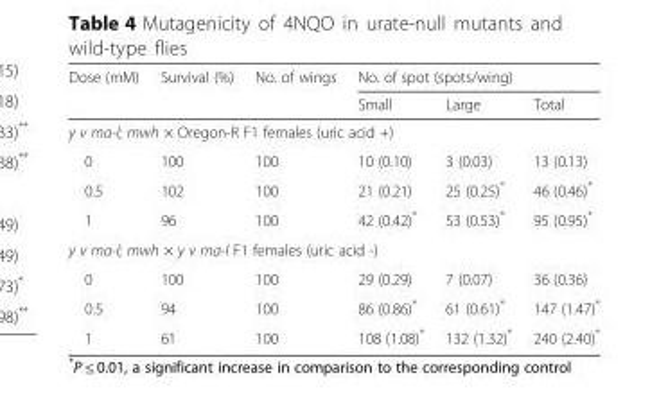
<table><thead><tr><td rowspan="2">Dose (mM)</td><td rowspan="2">Survival (%)</td><td rowspan="2">No. of wings</td><td colspan="3">No. of spot (spots/wing)</td></tr><tr><td>Small</td><td>Large</td><td>Total</td></tr></thead><tbody><tr><td colspan="6">y v ma-l; mwh × Oregon-R F1 females (uric acid +)</td></tr><tr><td>0</td><td>100</td><td>100</td><td>10 (0.10)</td><td>3 (0.03)</td><td>13 (0.13)</td></tr><tr><td>0.5</td><td>102</td><td>100</td><td>21 (0.21)</td><td>25 (0.25)*</td><td>46 (0.46)*</td></tr><tr><td>1</td><td>96</td><td>100</td><td>42 (0.42)*</td><td>53 (0.53)*</td><td>95 (0.95)*</td></tr><tr><td colspan="6">y v ma-l; mwh × y v ma-l F1 females (uric acid -)</td></tr><tr><td>0</td><td>100</td><td>100</td><td>29 (0.29)</td><td>7 (0.07)</td><td>36 (0.36)</td></tr><tr><td>0.5</td><td>94</td><td>100</td><td>86 (0.86)*</td><td>61 (0.61)*</td><td>147 (1.47)*</td></tr><tr><td>1</td><td>61</td><td>100</td><td>108 (1.08)*</td><td>132 (1.32)*</td><td>240 (2.40)*</td></tr></tbody></table>